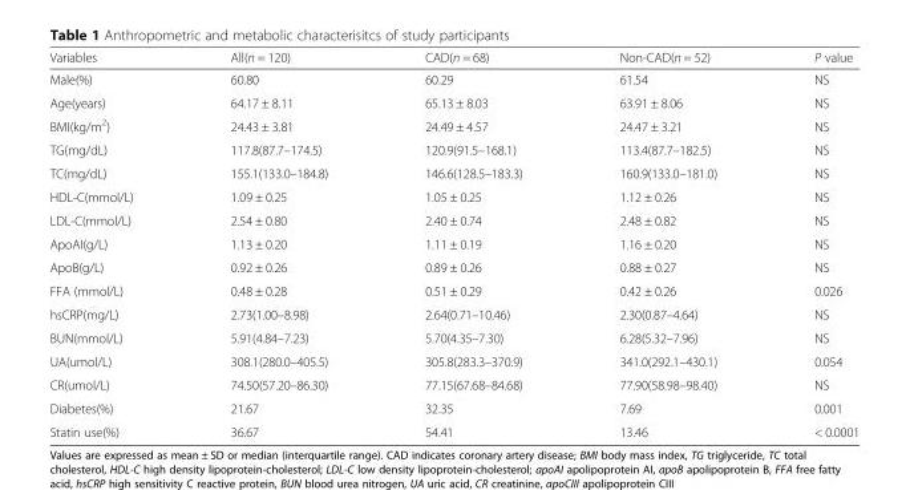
<table><thead><tr><td>Variables</td><td>All(n = 120)</td><td>CAD(n = 68)</td><td>Non-CAD(n = 52)</td><td>P value</td></tr></thead><tbody><tr><td>Male(%)</td><td>60.80</td><td>60.29</td><td>61.54</td><td>NS</td></tr><tr><td>Age(years)</td><td>64.17 ± 8.11</td><td>65.13 ± 8.03</td><td>63.91 ± 8.06</td><td>NS</td></tr><tr><td>BMI(kg/m<sup>2</sup>)</td><td>24.43 ± 3.81</td><td>24.49 ± 4.57</td><td>24.47 ± 3.21</td><td>NS</td></tr><tr><td>TG(mg/dL)</td><td>117.8(87.7–174.5)</td><td>120.9(91.5–168.1)</td><td>113.4(87.7–182.5)</td><td>NS</td></tr><tr><td>TC(mg/dL)</td><td>155.1(133.0–184.8)</td><td>146.6(128.5–183.3)</td><td>160.9(133.0–181.0)</td><td>NS</td></tr><tr><td>HDL-C(mmol/L)</td><td>1.09 ± 0.25</td><td>1.05 ± 0.25</td><td>1.12 ± 0.26</td><td>NS</td></tr><tr><td>LDL-C(mmol/L)</td><td>2.54 ± 0.80</td><td>2.40 ± 0.74</td><td>2.48 ± 0.82</td><td>NS</td></tr><tr><td>ApoAI(g/L)</td><td>1.13 ± 0.20</td><td>1.11 ± 0.19</td><td>1.16 ± 0.20</td><td>NS</td></tr><tr><td>ApoB(g/L)</td><td>0.92 ± 0.26</td><td>0.89 ± 0.26</td><td>0.88 ± 0.27</td><td>NS</td></tr><tr><td>FFA (mmol/L)</td><td>0.48 ± 0.28</td><td>0.51 ± 0.29</td><td>0.42 ± 0.26</td><td>0.026</td></tr><tr><td>hsCRP(mg/L)</td><td>2.73(1.00–8.98)</td><td>2.64(0.71–10.46)</td><td>2.30(0.87–4.64)</td><td>NS</td></tr><tr><td>BUN(mmol/L)</td><td>5.91(4.84–7.23)</td><td>5.70(4.35–7.30)</td><td>6.28(5.32–7.96)</td><td>NS</td></tr><tr><td>UA(umol/L)</td><td>308.1(280.0–405.5)</td><td>305.8(283.3–370.9)</td><td>341.0(292.1–430.1)</td><td>0.054</td></tr><tr><td>CR(umol/L)</td><td>74.50(57.20–86.30)</td><td>77.15(67.68–84.68)</td><td>77.90(58.98–98.40)</td><td>NS</td></tr><tr><td>Diabetes(%)</td><td>21.67</td><td>32.35</td><td>7.69</td><td>0.001</td></tr><tr><td>Statin use(%)</td><td>36.67</td><td>54.41</td><td>13.46</td><td>&lt; 0.0001</td></tr></tbody></table>